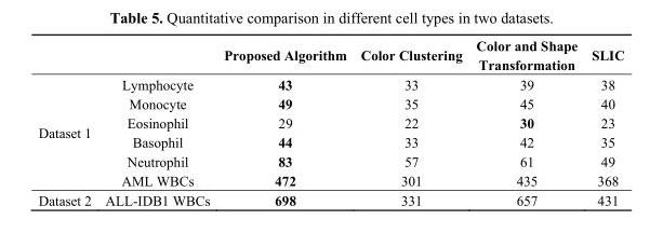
<table><thead><tr><td></td><td></td><td>Proposed Algorithm</td><td>Color Clustering</td><td>Color and Shape Transformation</td><td>SLIC</td></tr></thead><tbody><tr><td rowspan="6">Dataset 1</td><td>Lymphocyte</td><td>43</td><td>33</td><td>39</td><td>38</td></tr><tr><td>Monocyte</td><td>49</td><td>35</td><td>45</td><td>40</td></tr><tr><td>Eosinophil</td><td>29</td><td>22</td><td>30</td><td>23</td></tr><tr><td>Basophil</td><td>44</td><td>33</td><td>42</td><td>35</td></tr><tr><td>Neutrophil</td><td>83</td><td>57</td><td>61</td><td>49</td></tr><tr><td>AML WBCs</td><td>472</td><td>301</td><td>435</td><td>368</td></tr><tr><td>Dataset 2</td><td>ALL-IDB1 WBCs</td><td>698</td><td>331</td><td>657</td><td>431</td></tr></tbody></table>